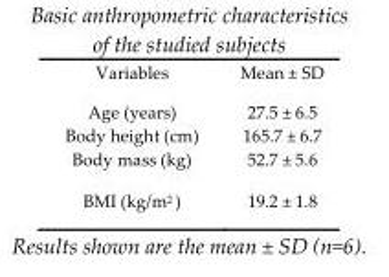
<table><thead><tr><td>Variables</td><td>Mean ± SD</td></tr></thead><tbody><tr><td>Age (years)</td><td>27.5 ± 6.5</td></tr><tr><td>Body height (cm)</td><td>165.7 ± 6.7</td></tr><tr><td>Body mass (kg)</td><td>52.7 ± 5.6</td></tr><tr><td>BMI (kg/m<sup>2</sup> )</td><td>19.2 ± 1.8</td></tr></tbody></table>